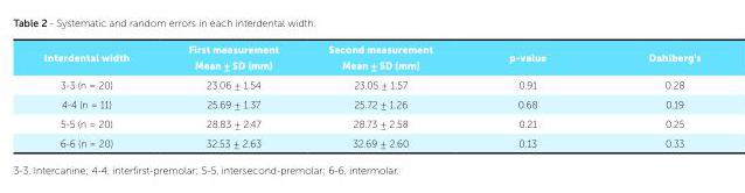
<table><thead><tr><td>Interdental width</td><td>First measurement Mean ± SD (mm)</td><td>Second measurement Mean ± SD (mm)</td><td>p-value</td><td>Dahlberg&#x27;s</td></tr></thead><tbody><tr><td>3-3 (n = 20)</td><td>23.06 ± 1.54</td><td>23.05 ± 1.57</td><td>0.91</td><td>0.28</td></tr><tr><td>4-4 (n = 11)</td><td>25.69 ± 1.37</td><td>25.72 ± 1.26</td><td>0.68</td><td>0.19</td></tr><tr><td>5-5 (n = 20)</td><td>28.83 ± 2.47</td><td>28.73 ± 2.58</td><td>0.21</td><td>0.25</td></tr><tr><td>6-6 (n = 20)</td><td>32.53 ± 2.63</td><td>32.69 ± 2.60</td><td>0.13</td><td>0.33</td></tr></tbody></table>